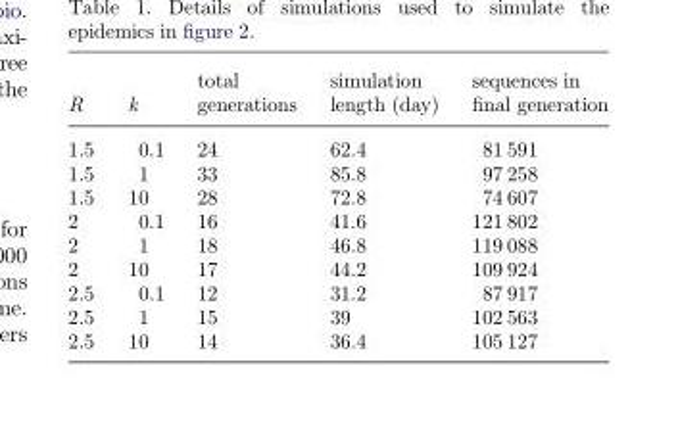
<table><thead><tr><td>R</td><td>k</td><td>total generations</td><td>simulation length (day)</td><td>sequences in final generation</td></tr></thead><tbody><tr><td>1.5</td><td>0.1</td><td>24</td><td>62.4</td><td>81 591</td></tr><tr><td>1.5</td><td>1</td><td>33</td><td>85.8</td><td>97 258</td></tr><tr><td>1.5</td><td>10</td><td>28</td><td>72.8</td><td>74 607</td></tr><tr><td>2</td><td>0.1</td><td>16</td><td>41.6</td><td>121 802</td></tr><tr><td>2</td><td>1</td><td>18</td><td>46.8</td><td>119 088</td></tr><tr><td>2</td><td>10</td><td>17</td><td>44.2</td><td>109 924</td></tr><tr><td>2.5</td><td>0.1</td><td>12</td><td>31.2</td><td>87 917</td></tr><tr><td>2.5</td><td>1</td><td>15</td><td>39</td><td>102 563</td></tr><tr><td>2.5</td><td>10</td><td>14</td><td>36.4</td><td>105 127</td></tr></tbody></table>